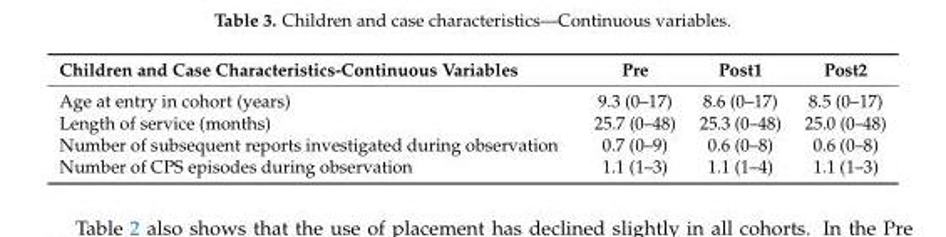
<table><thead><tr><td>Children and Case Characteristics-Continuous Variables</td><td>Pre</td><td>Post1</td><td>Post2</td></tr></thead><tbody><tr><td>Age at entry in cohort (years)</td><td>9.3 (0–17)</td><td>8.6 (0–17)</td><td>8.5 (0–17)</td></tr><tr><td>Length of service (months)</td><td>25.7 (0–48)</td><td>25.3 (0–48)</td><td>25.0 (0–48)</td></tr><tr><td>Number of subsequent reports investigated during observation</td><td>0.7 (0–9)</td><td>0.6 (0–8)</td><td>0.6 (0–8)</td></tr><tr><td>Number of CPS episodes during observation</td><td>1.1 (1–3)</td><td>1.1 (1–4)</td><td>1.1 (1–3)</td></tr></tbody></table>